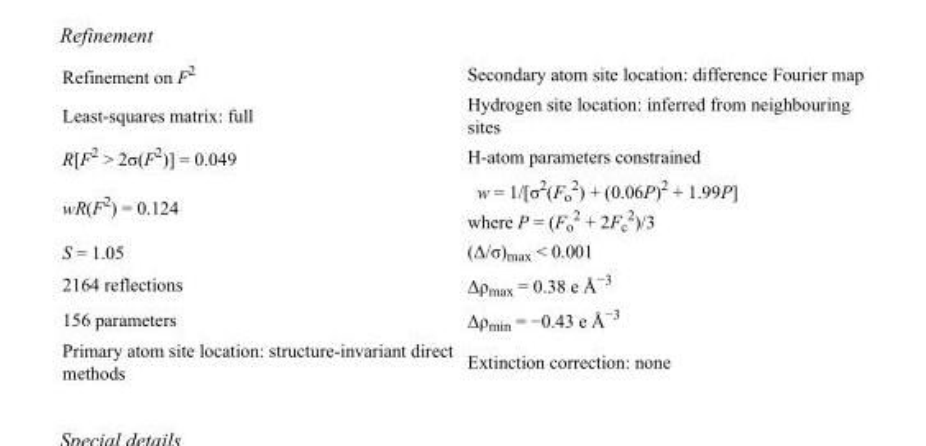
<table><tbody><tr><td>Refinement on F<sup>2</sup></td><td>Secondary atom site location: difference Fourier map</td></tr><tr><td>Least-squares matrix: full</td><td>Hydrogen site location: inferred from neighbouring sites</td></tr><tr><td>R[F<sup>2</sup> &gt; 2σ(F<sup>2</sup>)] = 0.049</td><td>H-atom parameters constrained</td></tr><tr><td>wR(F<sup>2</sup>) = 0.124</td><td>w = 1/[σ<sup>2</sup>(F<sub>o</sub> <sup>2</sup>) + (0.06P)<sup>2</sup> + 1.99P] where P = (F<sub>o</sub> <sup>2</sup> + 2F<sub>c</sub> <sup>2</sup>)/3</td></tr><tr><td>S = 1.05</td><td>(Δ/σ)<sub>max</sub> &lt; 0.001</td></tr><tr><td>2164 reflections</td><td>Δρ<sub>max</sub> = 0.38 e Å<sup>−3</sup></td></tr><tr><td>156 parameters</td><td>Δρ<sub>min</sub> = −0.43 e Å<sup>−3</sup></td></tr><tr><td>Primary atom site location: structure-invariant direct methods</td><td>Extinction correction: none</td></tr></tbody></table>